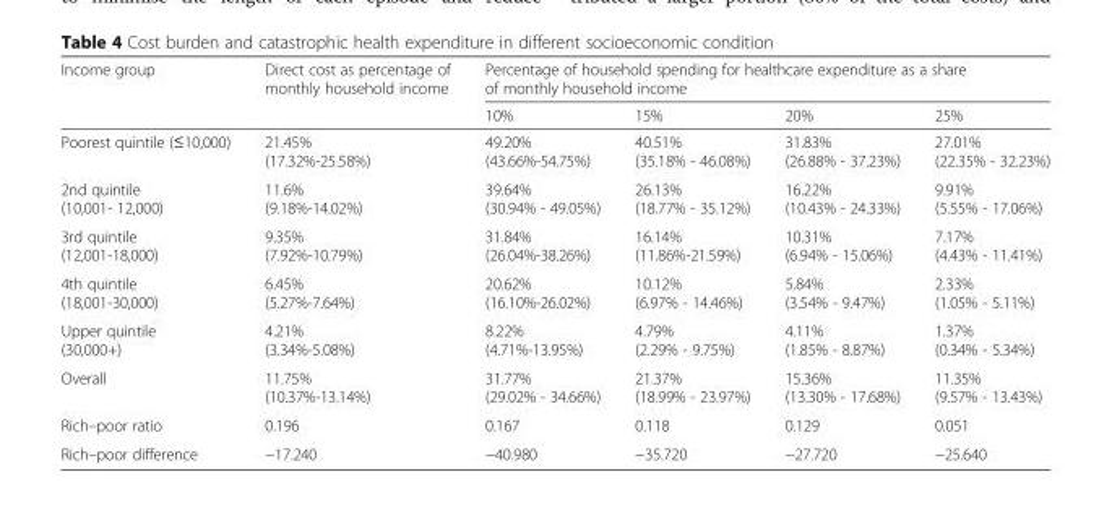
<table><thead><tr><td rowspan="2">Income group</td><td rowspan="2">Direct cost as percentage of monthly household income</td><td colspan="4">Percentage of household spending for healthcare expenditure as a share of monthly household income</td></tr><tr><td>10%</td><td>15%</td><td>20%</td><td>25%</td></tr></thead><tbody><tr><td>Poorest quintile (≤10,000)</td><td>21.45% (17.32%-25.58%)</td><td>49.20% (43.66%-54.75%)</td><td>40.51% (35.18% - 46.08%)</td><td>31.83% (26.88% - 37.23%)</td><td>27.01% (22.35% - 32.23%)</td></tr><tr><td>2nd quintile (10,001- 12,000)</td><td>11.6% (9.18%-14.02%)</td><td>39.64% (30.94% - 49.05%)</td><td>26.13% (18.77% - 35.12%)</td><td>16.22% (10.43% - 24.33%)</td><td>9.91% (5.55% - 17.06%)</td></tr><tr><td>3rd quintile (12,001-18,000)</td><td>9.35% (7.92%-10.79%)</td><td>31.84% (26.04%-38.26%)</td><td>16.14% (11.86%-21.59%)</td><td>10.31% (6.94% - 15.06%)</td><td>7.17% (4.43% - 11.41%)</td></tr><tr><td>4th quintile (18,001-30,000)</td><td>6.45% (5.27%-7.64%)</td><td>20.62% (16.10%-26.02%)</td><td>10.12% (6.97% - 14.46%)</td><td>5.84% (3.54% - 9.47%)</td><td>2.33% (1.05% - 5.11%)</td></tr><tr><td>Upper quintile (30,000+)</td><td>4.21% (3.34%-5.08%)</td><td>8.22% (4.71%-13.95%)</td><td>4.79% (2.29% - 9.75%)</td><td>4.11% (1.85% - 8.87%)</td><td>1.37% (0.34% - 5.34%)</td></tr><tr><td>Overall</td><td>11.75% (10.37%-13.14%)</td><td>31.77% (29.02% - 34.66%)</td><td>21.37% (18.99% - 23.97%)</td><td>15.36% (13.30% - 17.68%)</td><td>11.35% (9.57% - 13.43%)</td></tr><tr><td>Rich–poor ratio</td><td>0.196</td><td>0.167</td><td>0.118</td><td>0.129</td><td>0.051</td></tr><tr><td>Rich–poor difference</td><td>−17.240</td><td>−40.980</td><td>−35.720</td><td>−27.720</td><td>−25.640</td></tr></tbody></table>